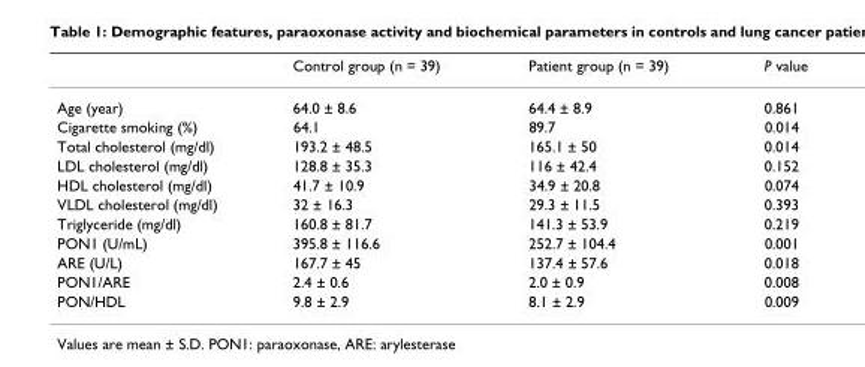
<table><thead><tr><td></td><td>Control group (n = 39)</td><td>Patient group (n = 39)</td><td>P value</td></tr></thead><tbody><tr><td>Age (year)</td><td>64.0 ± 8.6</td><td>64.4 ± 8.9</td><td>0.861</td></tr><tr><td>Cigarette smoking (%)</td><td>64.1</td><td>89.7</td><td>0.014</td></tr><tr><td>Total cholesterol (mg/dl)</td><td>193.2 ± 48.5</td><td>165.1 ± 50</td><td>0.014</td></tr><tr><td>LDL cholesterol (mg/dl)</td><td>128.8 ± 35.3</td><td>116 ± 42.4</td><td>0.152</td></tr><tr><td>HDL cholesterol (mg/dl)</td><td>41.7 ± 10.9</td><td>34.9 ± 20.8</td><td>0.074</td></tr><tr><td>VLDL cholesterol (mg/dl)</td><td>32 ± 16.3</td><td>29.3 ± 11.5</td><td>0.393</td></tr><tr><td>Triglyceride (mg/dl)</td><td>160.8 ± 81.7</td><td>141.3 ± 53.9</td><td>0.219</td></tr><tr><td>PON1 (U/mL)</td><td>395.8 ± 116.6</td><td>252.7 ± 104.4</td><td>0.001</td></tr><tr><td>ARE (U/L)</td><td>167.7 ± 45</td><td>137.4 ± 57.6</td><td>0.018</td></tr><tr><td>PON1/ARE</td><td>2.4 ± 0.6</td><td>2.0 ± 0.9</td><td>0.008</td></tr><tr><td>PON/HDL</td><td>9.8 ± 2.9</td><td>8.1 ± 2.9</td><td>0.009</td></tr></tbody></table>